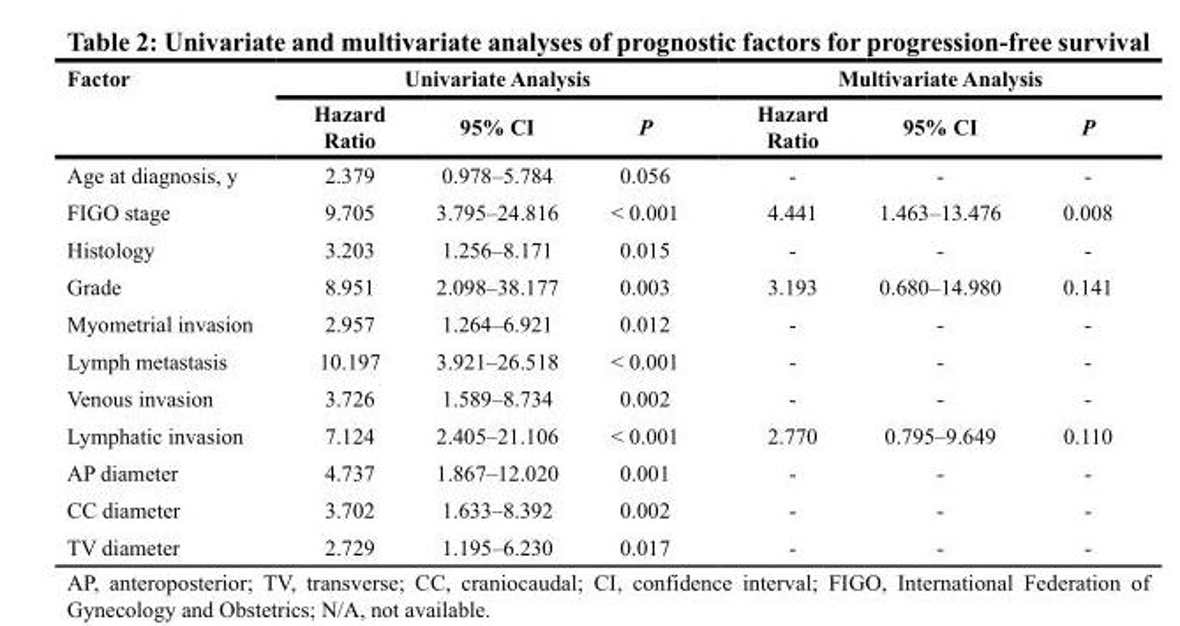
<table><thead><tr><td rowspan="2">Factor</td><td colspan="3">Univariate Analysis</td><td colspan="3">Multivariate Analysis</td></tr><tr><td>Hazard Ratio</td><td>95% CI</td><td>P</td><td>Hazard Ratio</td><td>95% CI</td><td>P</td></tr></thead><tbody><tr><td>Age at diagnosis, y</td><td>2.379</td><td>0.978–5.784</td><td>0.056</td><td>-</td><td>-</td><td>-</td></tr><tr><td>FIGO stage</td><td>9.705</td><td>3.795–24.816</td><td>&lt; 0.001</td><td>4.441</td><td>1.463–13.476</td><td>0.008</td></tr><tr><td>Histology</td><td>3.203</td><td>1.256–8.171</td><td>0.015</td><td>-</td><td>-</td><td>-</td></tr><tr><td>Grade</td><td>8.951</td><td>2.098–38.177</td><td>0.003</td><td>3.193</td><td>0.680–14.980</td><td>0.141</td></tr><tr><td>Myometrial invasion</td><td>2.957</td><td>1.264–6.921</td><td>0.012</td><td>-</td><td>-</td><td>-</td></tr><tr><td>Lymph metastasis</td><td>10.197</td><td>3.921–26.518</td><td>&lt; 0.001</td><td>-</td><td>-</td><td>-</td></tr><tr><td>Venous invasion</td><td>3.726</td><td>1.589–8.734</td><td>0.002</td><td>-</td><td>-</td><td>-</td></tr><tr><td>Lymphatic invasion</td><td>7.124</td><td>2.405–21.106</td><td>&lt; 0.001</td><td>2.770</td><td>0.795–9.649</td><td>0.110</td></tr><tr><td>AP diameter</td><td>4.737</td><td>1.867–12.020</td><td>0.001</td><td>-</td><td>-</td><td>-</td></tr><tr><td>CC diameter</td><td>3.702</td><td>1.633–8.392</td><td>0.002</td><td>-</td><td>-</td><td>-</td></tr><tr><td>TV diameter</td><td>2.729</td><td>1.195–6.230</td><td>0.017</td><td>-</td><td>-</td><td>-</td></tr></tbody></table>